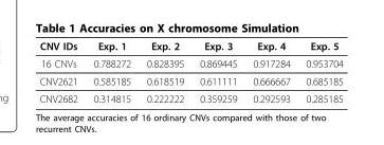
<table><thead><tr><td>CNV IDs</td><td>Exp. 1</td><td>Exp. 2</td><td>Exp. 3</td><td>Exp. 4</td><td>Exp. 5</td></tr></thead><tbody><tr><td>16 CNVs</td><td>0.788272</td><td>0.828395</td><td>0.869445</td><td>0.917284</td><td>0.953704</td></tr><tr><td>CNV2621</td><td>0.585185</td><td>0.618519</td><td>0.611111</td><td>0.666667</td><td>0.685185</td></tr><tr><td>CNV2682</td><td>0.314815</td><td>0.222222</td><td>0.359259</td><td>0.292593</td><td>0.285185</td></tr></tbody></table>